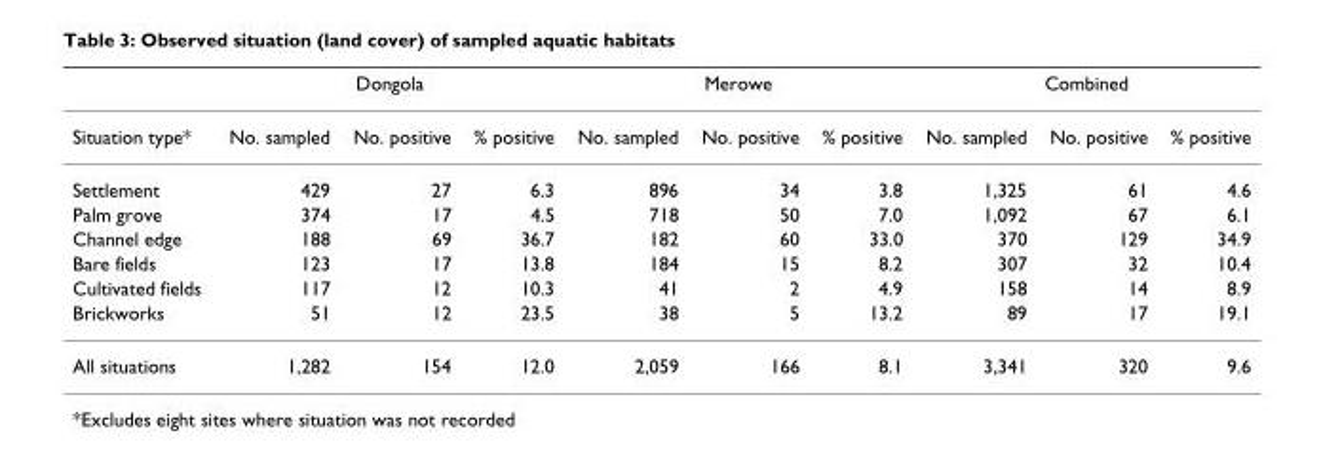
<table><thead><tr><td rowspan="2">Situation type*</td><td colspan="3">Dongola</td><td colspan="3">Merowe</td><td colspan="3">Combined</td></tr><tr><td>No. sampled</td><td>No. positive</td><td>% positive</td><td>No. sampled</td><td>No. positive</td><td>% positive</td><td>No. sampled</td><td>No. positive</td><td>% positive</td></tr></thead><tbody><tr><td>Settlement</td><td>429</td><td>27</td><td>6.3</td><td>896</td><td>34</td><td>3.8</td><td>1,325</td><td>61</td><td>4.6</td></tr><tr><td>Palm grove</td><td>374</td><td>17</td><td>4.5</td><td>718</td><td>50</td><td>7.0</td><td>1,092</td><td>67</td><td>6.1</td></tr><tr><td>Channel edge</td><td>188</td><td>69</td><td>36.7</td><td>182</td><td>60</td><td>33.0</td><td>370</td><td>129</td><td>34.9</td></tr><tr><td>Bare fields</td><td>123</td><td>17</td><td>13.8</td><td>184</td><td>15</td><td>8.2</td><td>307</td><td>32</td><td>10.4</td></tr><tr><td>Cultivated fields</td><td>117</td><td>12</td><td>10.3</td><td>41</td><td>2</td><td>4.9</td><td>158</td><td>14</td><td>8.9</td></tr><tr><td>Brickworks</td><td>51</td><td>12</td><td>23.5</td><td>38</td><td>5</td><td>13.2</td><td>89</td><td>17</td><td>19.1</td></tr><tr><td>All situations</td><td>1,282</td><td>154</td><td>12.0</td><td>2,059</td><td>166</td><td>8.1</td><td>3,341</td><td>320</td><td>9.6</td></tr></tbody></table>